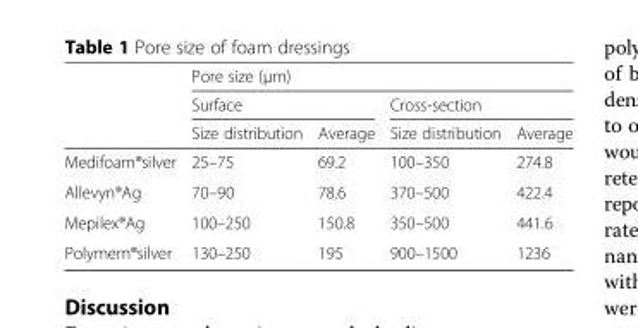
<table><thead><tr><td rowspan="3"></td><td colspan="4">Pore size (μm)</td></tr><tr><td colspan="2">Surface</td><td colspan="2">Cross-section</td></tr><tr><td>Size distribution</td><td>Average</td><td>Size distribution</td><td>Average</td></tr></thead><tbody><tr><td>Medifoam®silver</td><td>25–75</td><td>69.2</td><td>100–350</td><td>274.8</td></tr><tr><td>Allevyn®Ag</td><td>70–90</td><td>78.6</td><td>370–500</td><td>422.4</td></tr><tr><td>Mepilex®Ag</td><td>100–250</td><td>150.8</td><td>350–500</td><td>441.6</td></tr><tr><td>Polymem®silver</td><td>130–250</td><td>195</td><td>900–1500</td><td>1236</td></tr></tbody></table>